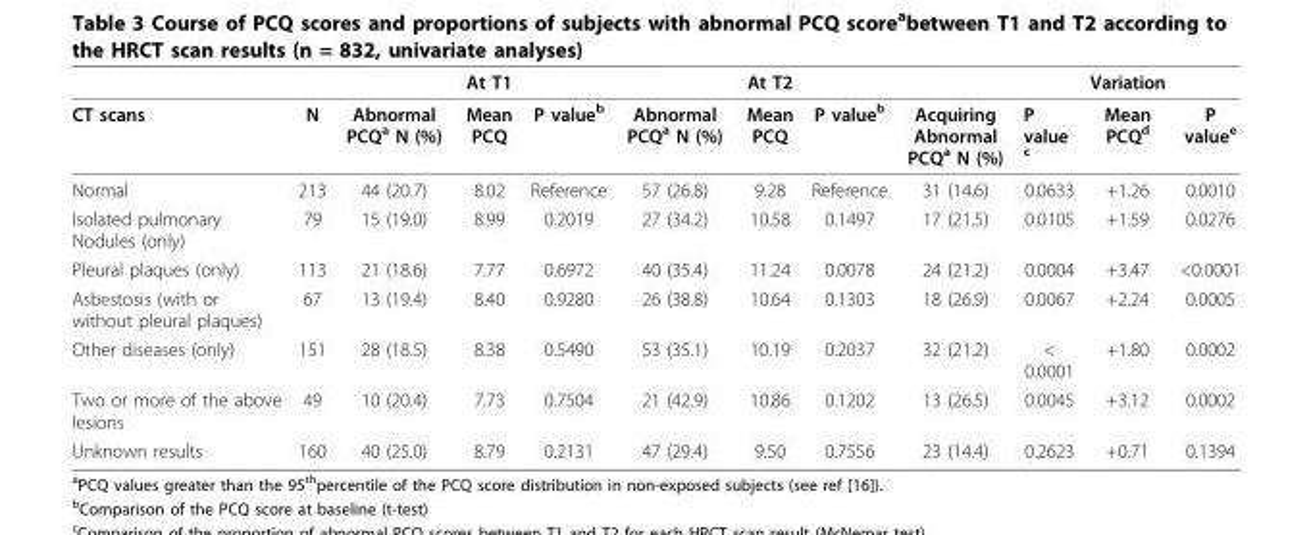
<table><thead><tr><td></td><td></td><td></td><td>At T1</td><td></td><td></td><td>At T2</td><td></td><td></td><td></td><td>Variation</td><td></td></tr></thead><tbody><tr><td>CT scans</td><td>N</td><td>Abnormal PCQ<sup>a</sup> N (%)</td><td>Mean PCQ</td><td>P value<sup>b</sup></td><td>Abnormal PCQ<sup>a</sup> N (%)</td><td>Mean PCQ</td><td>P value<sup>b</sup></td><td>Acquiring Abnormal PCQ<sup>a</sup> N (%)</td><td>P value <sup>c</sup></td><td>Mean PCQ<sup>d</sup></td><td>P value<sup>e</sup></td></tr><tr><td>Normal</td><td>213</td><td>44 (20.7)</td><td>8.02</td><td>Reference</td><td>57 (26.8)</td><td>9.28</td><td>Reference</td><td>31 (14.6)</td><td>0.0633</td><td>+1.26</td><td>0.0010</td></tr><tr><td>Isolated pulmonary Nodules (only)</td><td>79</td><td>15 (19.0)</td><td>8.99</td><td>0.2019</td><td>27 (34.2)</td><td>10.58</td><td>0.1497</td><td>17 (21.5)</td><td>0.0105</td><td>+1.59</td><td>0.0276</td></tr><tr><td>Pleural plaques (only)</td><td>113</td><td>21 (18.6)</td><td>7.77</td><td>0.6972</td><td>40 (35.4)</td><td>11.24</td><td>0.0078</td><td>24 (21.2)</td><td>0.0004</td><td>+3.47</td><td>&lt;0.0001</td></tr><tr><td>Asbestosis (with or without pleural plaques)</td><td>67</td><td>13 (19.4)</td><td>8.40</td><td>0.9280</td><td>26 (38.8)</td><td>10.64</td><td>0.1303</td><td>18 (26.9)</td><td>0.0067</td><td>+2.24</td><td>0.0005</td></tr><tr><td>Other diseases (only)</td><td>151</td><td>28 (18.5)</td><td>8.38</td><td>0.5490</td><td>53 (35.1)</td><td>10.19</td><td>0.2037</td><td>32 (21.2)</td><td>&lt; 0.0001</td><td>+1.80</td><td>0.0002</td></tr><tr><td>Two or more of the above lesions</td><td>49</td><td>10 (20.4)</td><td>7.73</td><td>0.7504</td><td>21 (42.9)</td><td>10.86</td><td>0.1202</td><td>13 (26.5)</td><td>0.0045</td><td>+3.12</td><td>0.0002</td></tr><tr><td>Unknown results</td><td>160</td><td>40 (25.0)</td><td>8.79</td><td>0.2131</td><td>47 (29.4)</td><td>9.50</td><td>0.7556</td><td>23 (14.4)</td><td>0.2623</td><td>+0.71</td><td>0.1394</td></tr></tbody></table>